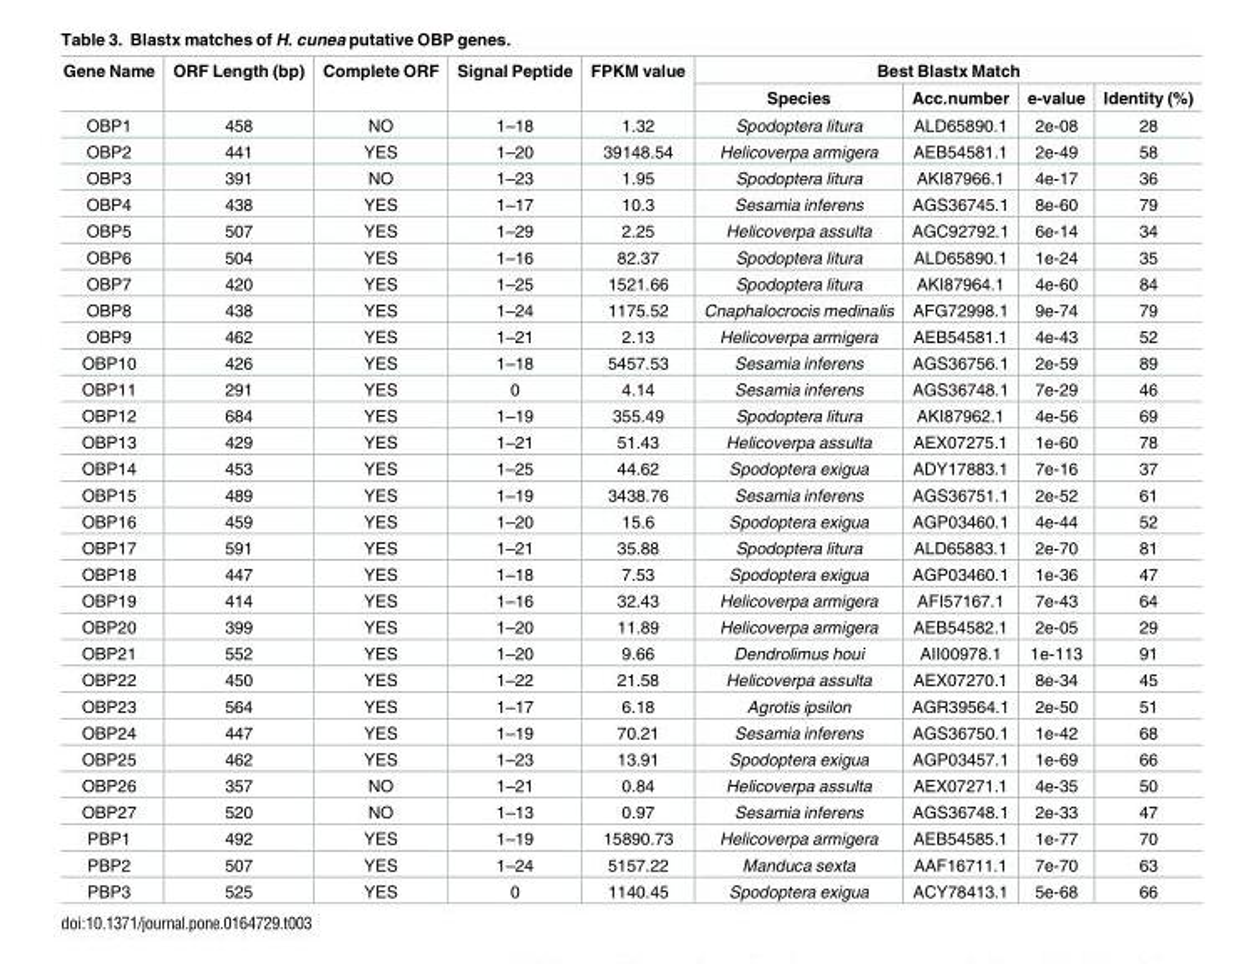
<table><thead><tr><td rowspan="2">Gene Name</td><td rowspan="2">ORF Length (bp)</td><td rowspan="2">Complete ORF</td><td rowspan="2">Signal Peptide</td><td rowspan="2">FPKM value</td><td colspan="4">Best Blastx Match</td></tr><tr><td>Species</td><td>Acc.number</td><td>e-value</td><td>Identity (%)</td></tr></thead><tbody><tr><td>OBP1</td><td>458</td><td>NO</td><td>1–18</td><td>1.32</td><td>Spodoptera litura</td><td>ALD65890.1</td><td>2e-08</td><td>28</td></tr><tr><td>OBP2</td><td>441</td><td>YES</td><td>1–20</td><td>39148.54</td><td>Helicoverpa armigera</td><td>AEB54581.1</td><td>2e-49</td><td>58</td></tr><tr><td>OBP3</td><td>391</td><td>NO</td><td>1–23</td><td>1.95</td><td>Spodoptera litura</td><td>AKI87966.1</td><td>4e-17</td><td>36</td></tr><tr><td>OBP4</td><td>438</td><td>YES</td><td>1–17</td><td>10.3</td><td>Sesamia inferens</td><td>AGS36745.1</td><td>8e-60</td><td>79</td></tr><tr><td>OBP5</td><td>507</td><td>YES</td><td>1–29</td><td>2.25</td><td>Helicoverpa assulta</td><td>AGC92792.1</td><td>6e-14</td><td>34</td></tr><tr><td>OBP6</td><td>504</td><td>YES</td><td>1–16</td><td>82.37</td><td>Spodoptera litura</td><td>ALD65890.1</td><td>1e-24</td><td>35</td></tr><tr><td>OBP7</td><td>420</td><td>YES</td><td>1–25</td><td>1521.66</td><td>Spodoptera litura</td><td>AKI87964.1</td><td>4e-60</td><td>84</td></tr><tr><td>OBP8</td><td>438</td><td>YES</td><td>1–24</td><td>1175.52</td><td>Cnaphalocrocis medinalis</td><td>AFG72998.1</td><td>9e-74</td><td>79</td></tr><tr><td>OBP9</td><td>462</td><td>YES</td><td>1–21</td><td>2.13</td><td>Helicoverpa armigera</td><td>AEB54581.1</td><td>4e-43</td><td>52</td></tr><tr><td>OBP10</td><td>426</td><td>YES</td><td>1–18</td><td>5457.53</td><td>Sesamia inferens</td><td>AGS36756.1</td><td>2e-59</td><td>89</td></tr><tr><td>OBP11</td><td>291</td><td>YES</td><td>0</td><td>4.14</td><td>Sesamia inferens</td><td>AGS36748.1</td><td>7e-29</td><td>46</td></tr><tr><td>OBP12</td><td>684</td><td>YES</td><td>1–19</td><td>355.49</td><td>Spodoptera litura</td><td>AKI87962.1</td><td>4e-56</td><td>69</td></tr><tr><td>OBP13</td><td>429</td><td>YES</td><td>1–21</td><td>51.43</td><td>Helicoverpa assulta</td><td>AEX07275.1</td><td>1e-60</td><td>78</td></tr><tr><td>OBP14</td><td>453</td><td>YES</td><td>1–25</td><td>44.62</td><td>Spodoptera exigua</td><td>ADY17883.1</td><td>7e-16</td><td>37</td></tr><tr><td>OBP15</td><td>489</td><td>YES</td><td>1–19</td><td>3438.76</td><td>Sesamia inferens</td><td>AGS36751.1</td><td>2e-52</td><td>61</td></tr><tr><td>OBP16</td><td>459</td><td>YES</td><td>1–20</td><td>15.6</td><td>Spodoptera exigua</td><td>AGP03460.1</td><td>4e-44</td><td>52</td></tr><tr><td>OBP17</td><td>591</td><td>YES</td><td>1–21</td><td>35.88</td><td>Spodoptera litura</td><td>ALD65883.1</td><td>2e-70</td><td>81</td></tr><tr><td>OBP18</td><td>447</td><td>YES</td><td>1–18</td><td>7.53</td><td>Spodoptera exigua</td><td>AGP03460.1</td><td>1e-36</td><td>47</td></tr><tr><td>OBP19</td><td>414</td><td>YES</td><td>1–16</td><td>32.43</td><td>Helicoverpa armigera</td><td>AFI57167.1</td><td>7e-43</td><td>64</td></tr><tr><td>OBP20</td><td>399</td><td>YES</td><td>1–20</td><td>11.89</td><td>Helicoverpa armigera</td><td>AEB54582.1</td><td>2e-05</td><td>29</td></tr><tr><td>OBP21</td><td>552</td><td>YES</td><td>1–20</td><td>9.66</td><td>Dendrolimus houi</td><td>AII00978.1</td><td>1e-113</td><td>91</td></tr><tr><td>OBP22</td><td>450</td><td>YES</td><td>1–22</td><td>21.58</td><td>Helicoverpa assulta</td><td>AEX07270.1</td><td>8e-34</td><td>45</td></tr><tr><td>OBP23</td><td>564</td><td>YES</td><td>1–17</td><td>6.18</td><td>Agrotis ipsilon</td><td>AGR39564.1</td><td>2e-50</td><td>51</td></tr><tr><td>OBP24</td><td>447</td><td>YES</td><td>1–19</td><td>70.21</td><td>Sesamia inferens</td><td>AGS36750.1</td><td>1e-42</td><td>68</td></tr><tr><td>OBP25</td><td>462</td><td>YES</td><td>1–23</td><td>13.91</td><td>Spodoptera exigua</td><td>AGP03457.1</td><td>1e-69</td><td>66</td></tr><tr><td>OBP26</td><td>357</td><td>NO</td><td>1–21</td><td>0.84</td><td>Helicoverpa assulta</td><td>AEX07271.1</td><td>4e-35</td><td>50</td></tr><tr><td>OBP27</td><td>520</td><td>NO</td><td>1–13</td><td>0.97</td><td>Sesamia inferens</td><td>AGS36748.1</td><td>2e-33</td><td>47</td></tr><tr><td>PBP1</td><td>492</td><td>YES</td><td>1–19</td><td>15890.73</td><td>Helicoverpa armigera</td><td>AEB54585.1</td><td>1e-77</td><td>70</td></tr><tr><td>PBP2</td><td>507</td><td>YES</td><td>1–24</td><td>5157.22</td><td>Manduca sexta</td><td>AAF16711.1</td><td>7e-70</td><td>63</td></tr><tr><td>PBP3</td><td>525</td><td>YES</td><td>0</td><td>1140.45</td><td>Spodoptera exigua</td><td>ACY78413.1</td><td>5e-68</td><td>66</td></tr></tbody></table>